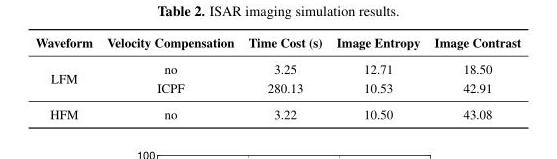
<table><thead><tr><td>Waveform</td><td>Velocity Compensation</td><td>Time Cost (s)</td><td>Image Entropy</td><td>Image Contrast</td></tr></thead><tbody><tr><td rowspan="2">LFM</td><td>no</td><td>3.25</td><td>12.71</td><td>18.50</td></tr><tr><td>ICPF</td><td>280.13</td><td>10.53</td><td>42.91</td></tr><tr><td>HFM</td><td>no</td><td>3.22</td><td>10.50</td><td>43.08</td></tr></tbody></table>